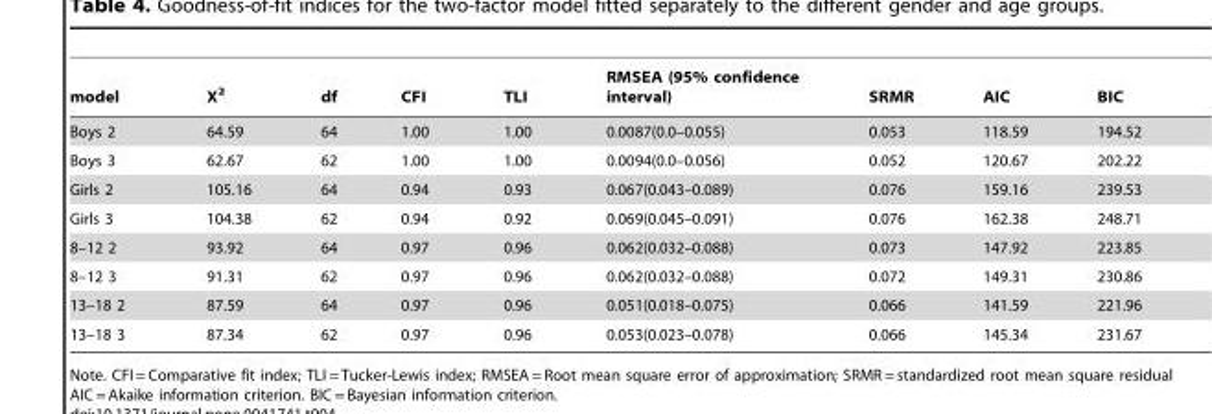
<table><thead><tr><td>model</td><td>X<sup>2</sup></td><td>df</td><td>CFI</td><td>TLI</td><td>RMSEA (95% confidence interval)</td><td>SRMR</td><td>AIC</td><td>BIC</td></tr></thead><tbody><tr><td>Boys 2</td><td>64.59</td><td>64</td><td>1.00</td><td>1.00</td><td>0.0087(0.0–0.055)</td><td>0.053</td><td>118.59</td><td>194.52</td></tr><tr><td>Boys 3</td><td>62.67</td><td>62</td><td>1.00</td><td>1.00</td><td>0.0094(0.0–0.056)</td><td>0.052</td><td>120.67</td><td>202.22</td></tr><tr><td>Girls 2</td><td>105.16</td><td>64</td><td>0.94</td><td>0.93</td><td>0.067(0.043–0.089)</td><td>0.076</td><td>159.16</td><td>239.53</td></tr><tr><td>Girls 3</td><td>104.38</td><td>62</td><td>0.94</td><td>0.92</td><td>0.069(0.045–0.091)</td><td>0.076</td><td>162.38</td><td>248.71</td></tr><tr><td>8–12 2</td><td>93.92</td><td>64</td><td>0.97</td><td>0.96</td><td>0.062(0.032–0.088)</td><td>0.073</td><td>147.92</td><td>223.85</td></tr><tr><td>8–12 3</td><td>91.31</td><td>62</td><td>0.97</td><td>0.96</td><td>0.062(0.032–0.088)</td><td>0.072</td><td>149.31</td><td>230.86</td></tr><tr><td>13–18 2</td><td>87.59</td><td>64</td><td>0.97</td><td>0.96</td><td>0.051(0.018–0.075)</td><td>0.066</td><td>141.59</td><td>221.96</td></tr><tr><td>13–18 3</td><td>87.34</td><td>62</td><td>0.97</td><td>0.96</td><td>0.053(0.023–0.078)</td><td>0.066</td><td>145.34</td><td>231.67</td></tr></tbody></table>